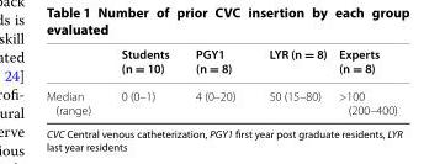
<table><thead><tr><td></td><td>Students (n = 10)</td><td>PGY1 (n = 8)</td><td>LYR (n = 8)</td><td>Experts (n = 8)</td></tr></thead><tbody><tr><td>Median (range)</td><td>0 (0–1)</td><td>4 (0–20)</td><td>50 (15–80)</td><td>&gt;100 (200–400)</td></tr></tbody></table>